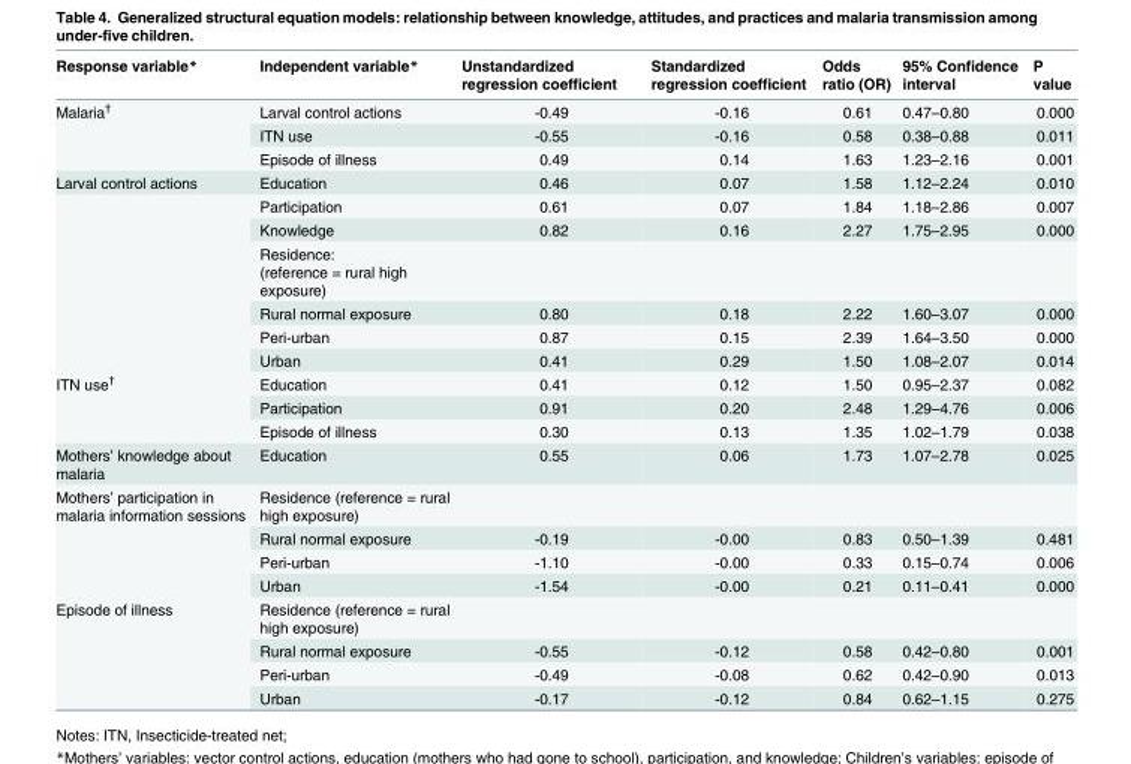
<table><thead><tr><td>Response variable*</td><td>Independent variable*</td><td>Unstandardized regression coefficient</td><td>Standardized regression coefficient</td><td>Odds ratio (OR)</td><td>95% Confidence interval</td><td>P value</td></tr></thead><tbody><tr><td rowspan="3">Malaria<sup>†</sup></td><td>Larval control actions</td><td>-0.49</td><td>-0.16</td><td>0.61</td><td>0.47–0.80</td><td>0.000</td></tr><tr><td>ITN use</td><td>-0.55</td><td>-0.16</td><td>0.58</td><td>0.38–0.88</td><td>0.011</td></tr><tr><td>Episode of illness</td><td>0.49</td><td>0.14</td><td>1.63</td><td>1.23–2.16</td><td>0.001</td></tr><tr><td rowspan="7">Larval control actions</td><td>Education</td><td>0.46</td><td>0.07</td><td>1.58</td><td>1.12–2.24</td><td>0.010</td></tr><tr><td>Participation</td><td>0.61</td><td>0.07</td><td>1.84</td><td>1.18–2.86</td><td>0.007</td></tr><tr><td>Knowledge</td><td>0.82</td><td>0.16</td><td>2.27</td><td>1.75–2.95</td><td>0.000</td></tr><tr><td>Residence: (reference = rural high exposure)</td><td></td><td></td><td></td><td></td><td></td></tr><tr><td>Rural normal exposure</td><td>0.80</td><td>0.18</td><td>2.22</td><td>1.60–3.07</td><td>0.000</td></tr><tr><td>Peri-urban</td><td>0.87</td><td>0.15</td><td>2.39</td><td>1.64–3.50</td><td>0.000</td></tr><tr><td>Urban</td><td>0.41</td><td>0.29</td><td>1.50</td><td>1.08–2.07</td><td>0.014</td></tr><tr><td rowspan="3">ITN use<sup>†</sup></td><td>Education</td><td>0.41</td><td>0.12</td><td>1.50</td><td>0.95–2.37</td><td>0.082</td></tr><tr><td>Participation</td><td>0.91</td><td>0.20</td><td>2.48</td><td>1.29–4.76</td><td>0.006</td></tr><tr><td>Episode of illness</td><td>0.30</td><td>0.13</td><td>1.35</td><td>1.02–1.79</td><td>0.038</td></tr><tr><td>Mothers’ knowledge about malaria</td><td>Education</td><td>0.55</td><td>0.06</td><td>1.73</td><td>1.07–2.78</td><td>0.025</td></tr><tr><td rowspan="4">Mothers’ participation in malaria information sessions</td><td>Residence (reference = rural high exposure)</td><td></td><td></td><td></td><td></td><td></td></tr><tr><td>Rural normal exposure</td><td>-0.19</td><td>-0.00</td><td>0.83</td><td>0.50–1.39</td><td>0.481</td></tr><tr><td>Peri-urban</td><td>-1.10</td><td>-0.00</td><td>0.33</td><td>0.15–0.74</td><td>0.006</td></tr><tr><td>Urban</td><td>-1.54</td><td>-0.00</td><td>0.21</td><td>0.11–0.41</td><td>0.000</td></tr><tr><td rowspan="4">Episode of illness</td><td>Residence (reference = rural high exposure)</td><td></td><td></td><td></td><td></td><td></td></tr><tr><td>Rural normal exposure</td><td>-0.55</td><td>-0.12</td><td>0.58</td><td>0.42–0.80</td><td>0.001</td></tr><tr><td>Peri-urban</td><td>-0.49</td><td>-0.08</td><td>0.62</td><td>0.42–0.90</td><td>0.013</td></tr><tr><td>Urban</td><td>-0.17</td><td>-0.12</td><td>0.84</td><td>0.62–1.15</td><td>0.275</td></tr></tbody></table>